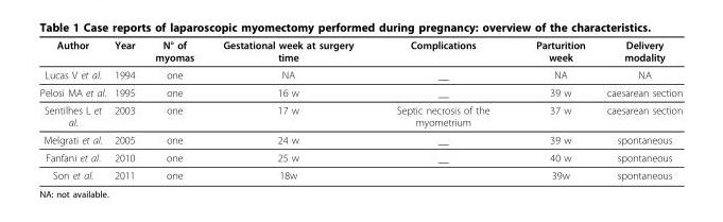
<table><thead><tr><td>Author</td><td>Year</td><td>N° of myomas</td><td>Gestational week at surgery time</td><td>Complications</td><td>Parturition week</td><td>Delivery modality</td></tr></thead><tbody><tr><td>Lucas V et al.</td><td>1994</td><td>one</td><td>NA</td><td>__</td><td>NA</td><td>NA</td></tr><tr><td>Pelosi MA et al.</td><td>1995</td><td>one</td><td>16 w</td><td>__</td><td>39 w</td><td>caesarean section</td></tr><tr><td>Sentilhes L et al.</td><td>2003</td><td>one</td><td>17 w</td><td>Septic necrosis of the myometrium</td><td>37 w</td><td>caesarean section</td></tr><tr><td>Melgrati et al.</td><td>2005</td><td>one</td><td>24 w</td><td>__</td><td>39 w</td><td>spontaneous</td></tr><tr><td>Fanfani et al.</td><td>2010</td><td>one</td><td>25 w</td><td>__</td><td>40 w</td><td>spontaneous</td></tr><tr><td>Son et al.</td><td>2011</td><td>one</td><td>18w</td><td></td><td>39w</td><td>spontaneous</td></tr></tbody></table>